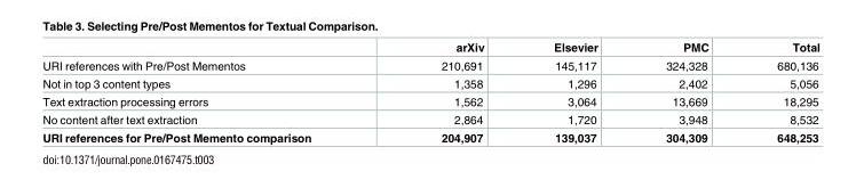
<table><thead><tr><td></td><td>arXiv</td><td>Elsevier</td><td>PMC</td><td>Total</td></tr></thead><tbody><tr><td>URI references with Pre/Post Mementos</td><td>210,691</td><td>145,117</td><td>324,328</td><td>680,136</td></tr><tr><td>Not in top 3 content types</td><td>1,358</td><td>1,296</td><td>2,402</td><td>5,056</td></tr><tr><td>Text extraction processing errors</td><td>1,562</td><td>3,064</td><td>13,669</td><td>18,295</td></tr><tr><td>No content after text extraction</td><td>2,864</td><td>1,720</td><td>3,948</td><td>8,532</td></tr><tr><td>URI references for Pre/Post Memento comparison</td><td>204,907</td><td>139,037</td><td>304,309</td><td>648,253</td></tr></tbody></table>